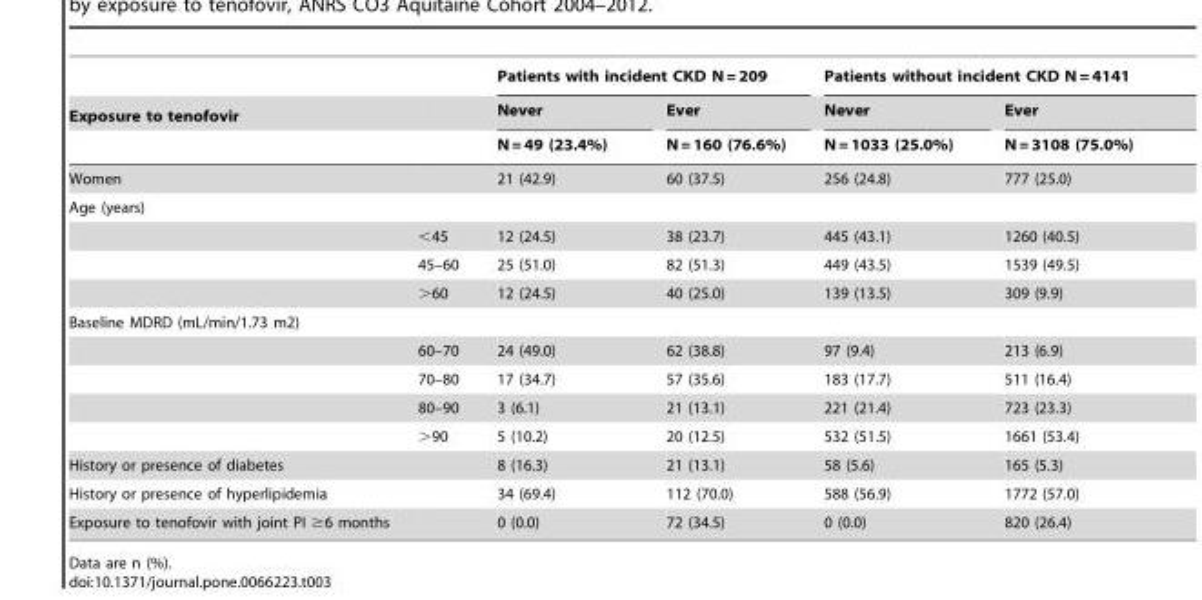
<table><thead><tr><td rowspan="3">Exposure to tenofovir</td><td rowspan="3"></td><td colspan="2">Patients with incident CKD N = 209</td><td colspan="2">Patients without incident CKD N = 4141</td></tr><tr><td rowspan="2">Never N = 49 (23.4%)</td><td rowspan="2">Ever N = 160 (76.6%)</td><td rowspan="2">Never N = 1033 (25.0%)</td><td rowspan="2">Ever N = 3108 (75.0%)</td></tr><tr></tr></thead><tbody><tr><td>Women</td><td></td><td>21 (42.9)</td><td>60 (37.5)</td><td>256 (24.8)</td><td>777 (25.0)</td></tr><tr><td colspan="6">Age (years)</td></tr><tr><td></td><td>&lt;45</td><td>12 (24.5)</td><td>38 (23.7)</td><td>445 (43.1)</td><td>1260 (40.5)</td></tr><tr><td></td><td>45–60</td><td>25 (51.0)</td><td>82 (51.3)</td><td>449 (43.5)</td><td>1539 (49.5)</td></tr><tr><td></td><td>&gt;60</td><td>12 (24.5)</td><td>40 (25.0)</td><td>139 (13.5)</td><td>309 (9.9)</td></tr><tr><td colspan="6">Baseline MDRD (mL/min/1.73 m2)</td></tr><tr><td></td><td>60–70</td><td>24 (49.0)</td><td>62 (38.8)</td><td>97 (9.4)</td><td>213 (6.9)</td></tr><tr><td></td><td>70–80</td><td>17 (34.7)</td><td>57 (35.6)</td><td>183 (17.7)</td><td>511 (16.4)</td></tr><tr><td></td><td>80–90</td><td>3 (6.1)</td><td>21 (13.1)</td><td>221 (21.4)</td><td>723 (23.3)</td></tr><tr><td></td><td>&gt;90</td><td>5 (10.2)</td><td>20 (12.5)</td><td>532 (51.5)</td><td>1661 (53.4)</td></tr><tr><td>History or presence of diabetes</td><td></td><td>8 (16.3)</td><td>21 (13.1)</td><td>58 (5.6)</td><td>165 (5.3)</td></tr><tr><td>History or presence of hyperlipidemia</td><td></td><td>34 (69.4)</td><td>112 (70.0)</td><td>588 (56.9)</td><td>1772 (57.0)</td></tr><tr><td>Exposure to tenofovir with joint PI ≥6 months</td><td></td><td>0 (0.0)</td><td>72 (34.5)</td><td>0 (0.0)</td><td>820 (26.4)</td></tr></tbody></table>